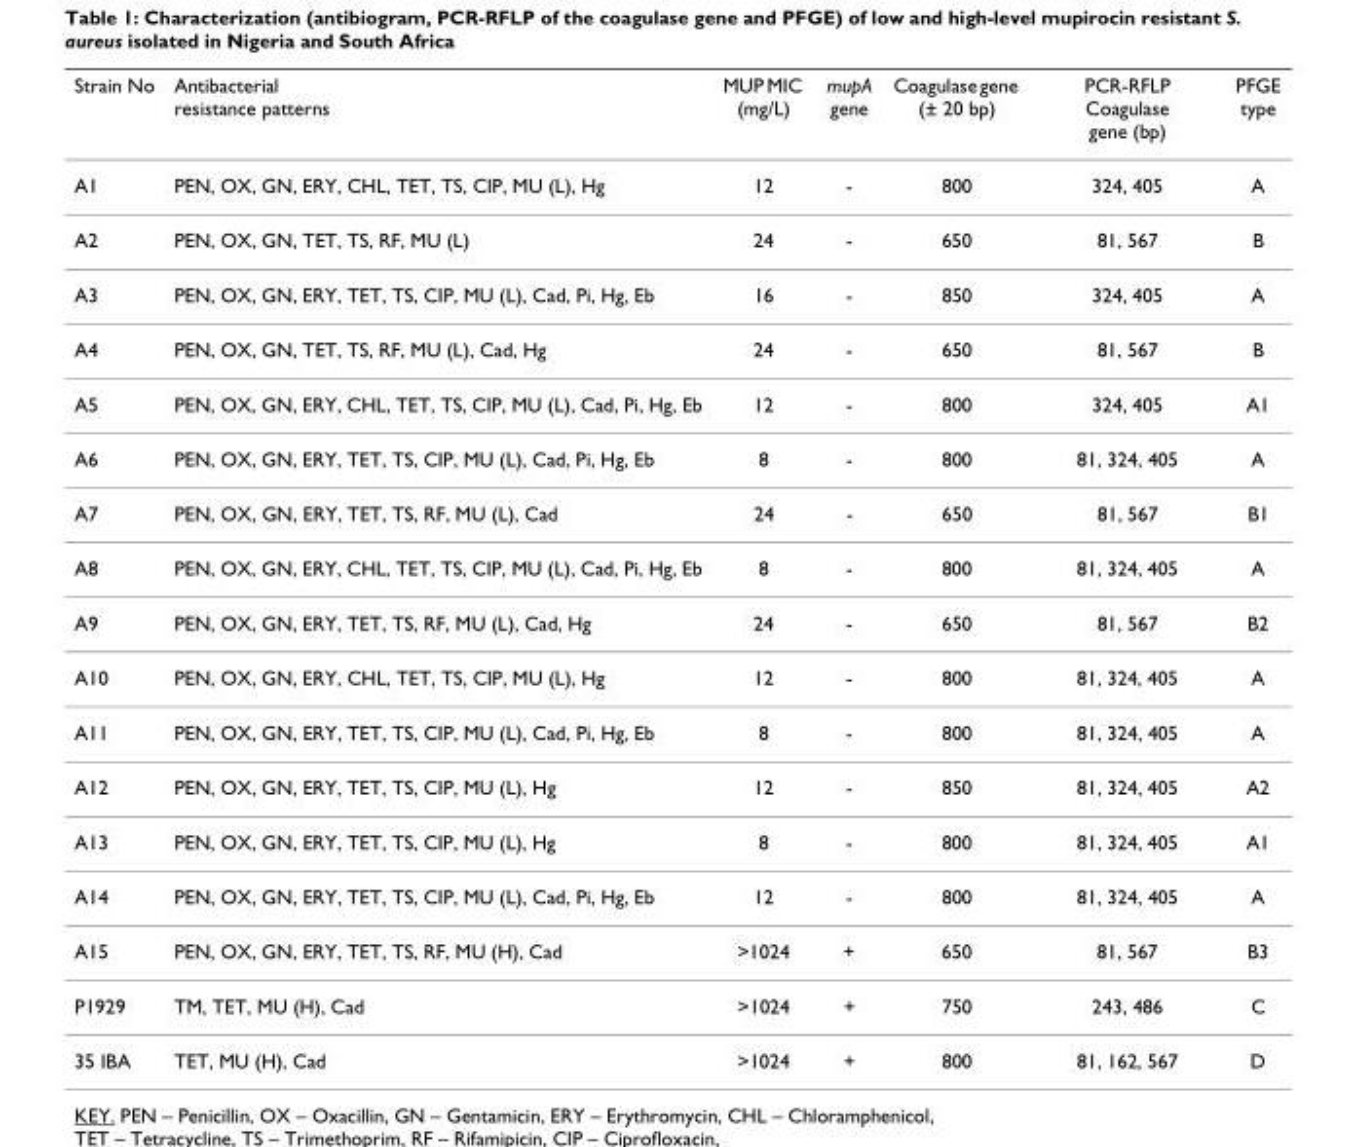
<table><thead><tr><td>Strain No</td><td>Antibacterial resistance patterns</td><td>MUP MIC (mg/L)</td><td>mupA gene</td><td>Coagulase gene (± 20 bp)</td><td>PCR-RFLP Coagulase gene (bp)</td><td>PFGE type</td></tr></thead><tbody><tr><td>A1</td><td>PEN, OX, GN, ERY, CHL, TET, TS, CIP, MU (L), Hg</td><td>12</td><td>-</td><td>800</td><td>324, 405</td><td>A</td></tr><tr><td>A2</td><td>PEN, OX, GN, TET, TS, RF, MU (L)</td><td>24</td><td>-</td><td>650</td><td>81, 567</td><td>B</td></tr><tr><td>A3</td><td>PEN, OX, GN, ERY, TET, TS, CIP, MU (L), Cad, Pi, Hg, Eb</td><td>16</td><td>-</td><td>850</td><td>324, 405</td><td>A</td></tr><tr><td>A4</td><td>PEN, OX, GN, TET, TS, RF, MU (L), Cad, Hg</td><td>24</td><td>-</td><td>650</td><td>81, 567</td><td>B</td></tr><tr><td>A5</td><td>PEN, OX, GN, ERY, CHL, TET, TS, CIP, MU (L), Cad, Pi, Hg, Eb</td><td>12</td><td>-</td><td>800</td><td>324, 405</td><td>A1</td></tr><tr><td>A6</td><td>PEN, OX, GN, ERY, TET, TS, CIP, MU (L), Cad, Pi, Hg, Eb</td><td>8</td><td>-</td><td>800</td><td>81, 324, 405</td><td>A</td></tr><tr><td>A7</td><td>PEN, OX, GN, ERY, TET, TS, RF, MU (L), Cad</td><td>24</td><td>-</td><td>650</td><td>81, 567</td><td>B1</td></tr><tr><td>A8</td><td>PEN, OX, GN, ERY, CHL, TET, TS, CIP, MU (L), Cad, Pi, Hg, Eb</td><td>8</td><td>-</td><td>800</td><td>81, 324, 405</td><td>A</td></tr><tr><td>A9</td><td>PEN, OX, GN, ERY, TET, TS, RF, MU (L), Cad, Hg</td><td>24</td><td>-</td><td>650</td><td>81, 567</td><td>B2</td></tr><tr><td>A10</td><td>PEN, OX, GN, ERY, CHL, TET, TS, CIP, MU (L), Hg</td><td>12</td><td>-</td><td>800</td><td>81, 324, 405</td><td>A</td></tr><tr><td>A11</td><td>PEN, OX, GN, ERY, TET, TS, CIP, MU (L), Cad, Pi, Hg, Eb</td><td>8</td><td>-</td><td>800</td><td>81, 324, 405</td><td>A</td></tr><tr><td>A12</td><td>PEN, OX, GN, ERY, TET, TS, CIP, MU (L), Hg</td><td>12</td><td>-</td><td>850</td><td>81, 324, 405</td><td>A2</td></tr><tr><td>A13</td><td>PEN, OX, GN, ERY, TET, TS, CIP, MU (L), Hg</td><td>8</td><td>-</td><td>800</td><td>81, 324, 405</td><td>A1</td></tr><tr><td>A14</td><td>PEN, OX, GN, ERY, TET, TS, CIP, MU (L), Cad, Pi, Hg, Eb</td><td>12</td><td>-</td><td>800</td><td>81, 324, 405</td><td>A</td></tr><tr><td>A15</td><td>PEN, OX, GN, ERY, TET, TS, RF, MU (H), Cad</td><td>&gt;1024</td><td>+</td><td>650</td><td>81, 567</td><td>B3</td></tr><tr><td>P1929</td><td>TM, TET, MU (H), Cad</td><td>&gt;1024</td><td>+</td><td>750</td><td>243, 486</td><td>C</td></tr><tr><td>35 IBA</td><td>TET, MU (H), Cad</td><td>&gt;1024</td><td>+</td><td>800</td><td>81, 162, 567</td><td>D</td></tr></tbody></table>